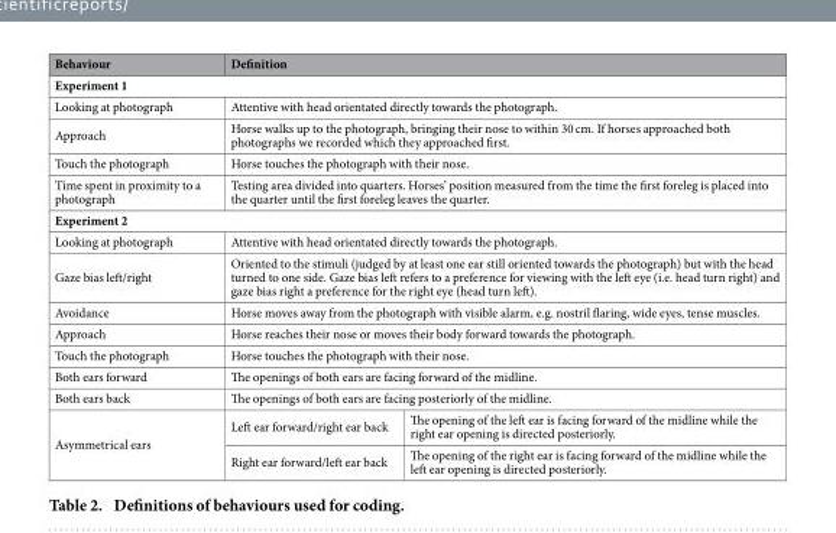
<table><thead><tr><td>Behaviour</td><td colspan="2">Definition</td></tr></thead><tbody><tr><td colspan="3">Experiment 1</td></tr><tr><td>Looking at photograph</td><td colspan="2">Attentive with head orientated directly towards the photograph.</td></tr><tr><td>Approach</td><td colspan="2">Horse walks up to the photograph, bringing their nose to within 30 cm. If horses approached both photographs we recorded which they approached first.</td></tr><tr><td>Touch the photograph</td><td colspan="2">Horse touches the photograph with their nose.</td></tr><tr><td>Time spent in proximity to a photograph</td><td colspan="2">Testing area divided into quarters. Horses’ position measured from the time the first foreleg is placed into the quarter until the first foreleg leaves the quarter.</td></tr><tr><td colspan="3">Experiment 2</td></tr><tr><td>Looking at photograph</td><td colspan="2">Attentive with head orientated directly towards the photograph.</td></tr><tr><td>Gaze bias left/right</td><td colspan="2">Oriented to the stimuli (judged by at least one ear still oriented towards the photograph) but with the head turned to one side. Gaze bias left refers to a preference for viewing with the left eye (i.e. head turn right) and gaze bias right a preference for the right eye (head turn left).</td></tr><tr><td>Avoidance</td><td colspan="2">Horse moves away from the photograph with visible alarm, e.g. nostril flaring, wide eyes, tense muscles.</td></tr><tr><td>Approach</td><td colspan="2">Horse reaches their nose or moves their body forward towards the photograph.</td></tr><tr><td>Touch the photograph</td><td colspan="2">Horse touches the photograph with their nose.</td></tr><tr><td>Both ears forward</td><td colspan="2">The openings of both ears are facing forward of the midline.</td></tr><tr><td>Both ears back</td><td colspan="2">The openings of both ears are facing posteriorly of the midline.</td></tr><tr><td rowspan="2">Asymmetrical ears</td><td>Left ear forward/right ear back</td><td>The opening of the left ear is facing forward of the midline while the right ear opening is directed posteriorly.</td></tr><tr><td>Right ear forward/left ear back</td><td>The opening of the right ear is facing forward of the midline while the left ear opening is directed posteriorly.</td></tr></tbody></table>